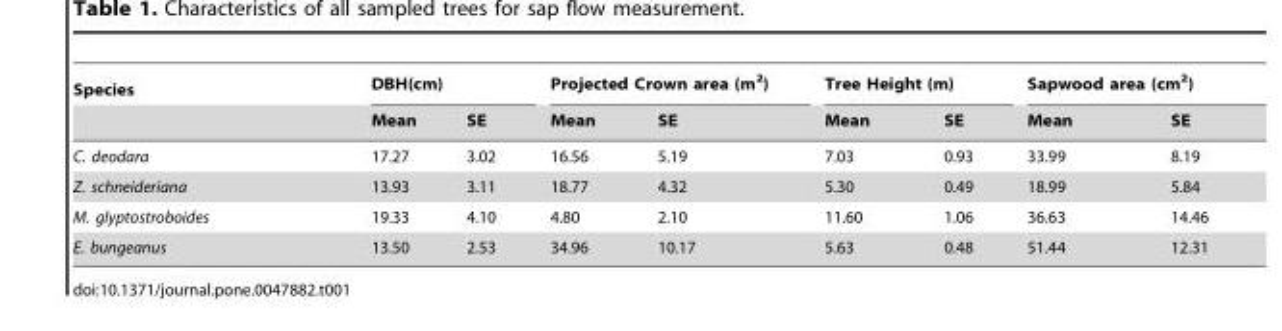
<table><thead><tr><td rowspan="2">Species</td><td colspan="2">DBH(cm)</td><td colspan="2">Projected Crown area (m<sup>2</sup>)</td><td colspan="2">Tree Height (m)</td><td colspan="2">Sapwood area (cm<sup>2</sup>)</td></tr><tr><td>Mean</td><td>SE</td><td>Mean</td><td>SE</td><td>Mean</td><td>SE</td><td>Mean</td><td>SE</td></tr></thead><tbody><tr><td>C. deodara</td><td>17.27</td><td>3.02</td><td>16.56</td><td>5.19</td><td>7.03</td><td>0.93</td><td>33.99</td><td>8.19</td></tr><tr><td>Z. schneideriana</td><td>13.93</td><td>3.11</td><td>18.77</td><td>4.32</td><td>5.30</td><td>0.49</td><td>18.99</td><td>5.84</td></tr><tr><td>M. glyptostroboides</td><td>19.33</td><td>4.10</td><td>4.80</td><td>2.10</td><td>11.60</td><td>1.06</td><td>36.63</td><td>14.46</td></tr><tr><td>E. bungeanus</td><td>13.50</td><td>2.53</td><td>34.96</td><td>10.17</td><td>5.63</td><td>0.48</td><td>51.44</td><td>12.31</td></tr></tbody></table>